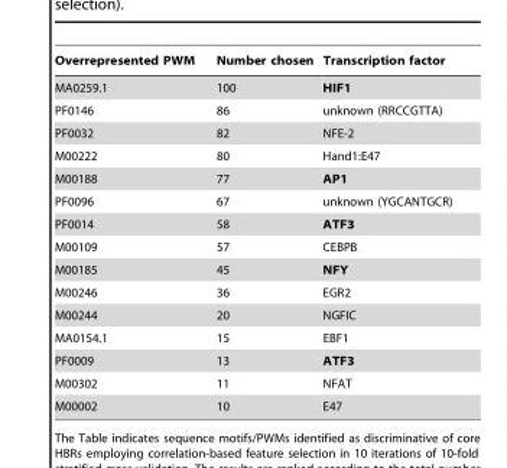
<table><thead><tr><td>Overrepresented PWM</td><td>Number chosen</td><td>Transcription factor</td></tr></thead><tbody><tr><td>MA0259.1</td><td>100</td><td>HIF1</td></tr><tr><td>PF0146</td><td>86</td><td>unknown (RRCCGTTA)</td></tr><tr><td>PF0032</td><td>82</td><td>NFE-2</td></tr><tr><td>M00222</td><td>80</td><td>Hand1:E47</td></tr><tr><td>M00188</td><td>77</td><td>AP1</td></tr><tr><td>PF0096</td><td>67</td><td>unknown (YGCANTGCR)</td></tr><tr><td>PF0014</td><td>58</td><td>ATF3</td></tr><tr><td>M00109</td><td>57</td><td>CEBPB</td></tr><tr><td>M00185</td><td>45</td><td>NFY</td></tr><tr><td>M00246</td><td>36</td><td>EGR2</td></tr><tr><td>M00244</td><td>20</td><td>NGFIC</td></tr><tr><td>MA0154.1</td><td>15</td><td>EBF1</td></tr><tr><td>PF0009</td><td>13</td><td>ATF3</td></tr><tr><td>M00302</td><td>11</td><td>NFAT</td></tr><tr><td>M00002</td><td>10</td><td>E47</td></tr></tbody></table>